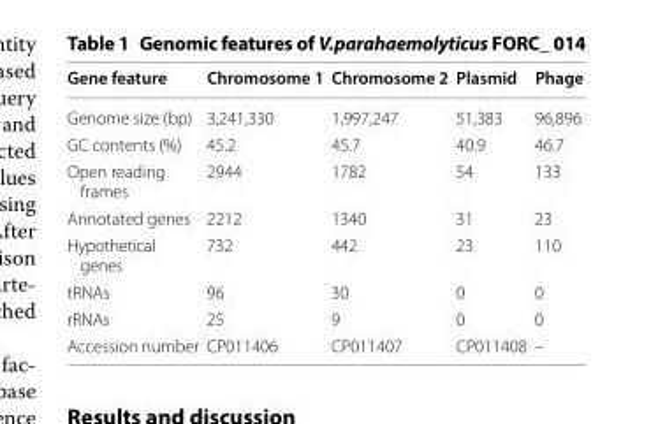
<table><thead><tr><td>Gene feature</td><td>Chromosome 1</td><td>Chromosome 2</td><td>Plasmid</td><td>Phage</td></tr></thead><tbody><tr><td>Genome size (bp)</td><td>3,241,330</td><td>1,997,247</td><td>51,383</td><td>96,896</td></tr><tr><td>GC contents (%)</td><td>45.2</td><td>45.7</td><td>40.9</td><td>46.7</td></tr><tr><td>Open reading frames</td><td>2944</td><td>1782</td><td>54</td><td>133</td></tr><tr><td>Annotated genes</td><td>2212</td><td>1340</td><td>31</td><td>23</td></tr><tr><td>Hypothetical genes</td><td>732</td><td>442</td><td>23</td><td>110</td></tr><tr><td>tRNAs</td><td>96</td><td>30</td><td>0</td><td>0</td></tr><tr><td>rRNAs</td><td>25</td><td>9</td><td>0</td><td>0</td></tr><tr><td>Accession number</td><td>CP011406</td><td>CP011407</td><td>CP011408</td><td>–</td></tr></tbody></table>